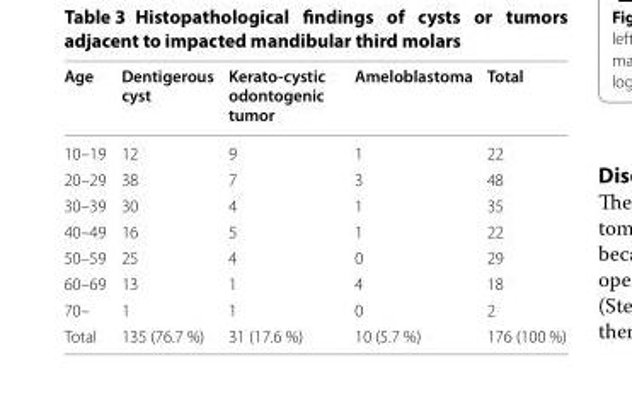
<table><thead><tr><td>Age</td><td>Dentigerous cyst</td><td>Kerato-cystic odontogenic tumor</td><td>Ameloblastoma</td><td>Total</td></tr></thead><tbody><tr><td>10–19</td><td>12</td><td>9</td><td>1</td><td>22</td></tr><tr><td>20–29</td><td>38</td><td>7</td><td>3</td><td>48</td></tr><tr><td>30–39</td><td>30</td><td>4</td><td>1</td><td>35</td></tr><tr><td>40–49</td><td>16</td><td>5</td><td>1</td><td>22</td></tr><tr><td>50–59</td><td>25</td><td>4</td><td>0</td><td>29</td></tr><tr><td>60–69</td><td>13</td><td>1</td><td>4</td><td>18</td></tr><tr><td>70–</td><td>1</td><td>1</td><td>0</td><td>2</td></tr><tr><td>Total</td><td>135 (76.7 %)</td><td>31 (17.6 %)</td><td>10 (5.7 %)</td><td>176 (100 %)</td></tr></tbody></table>